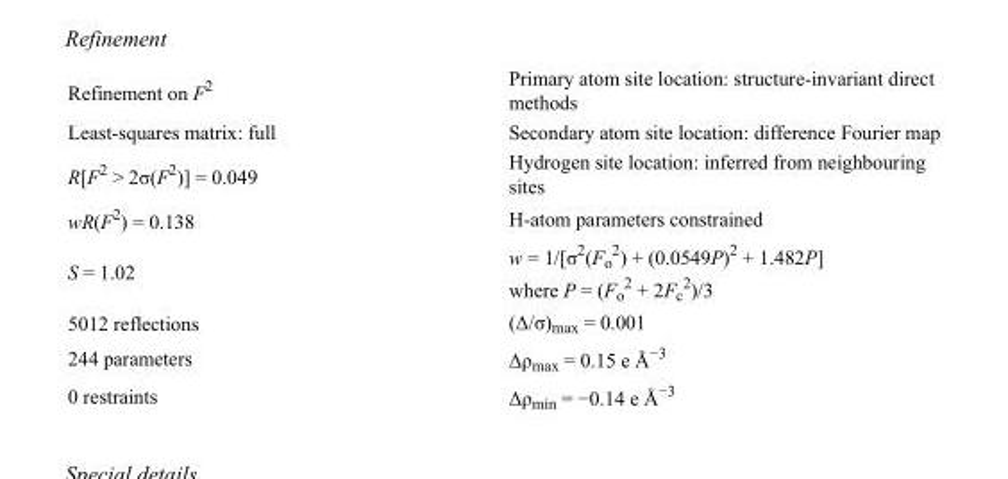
<table><tbody><tr><td>Refinement on F<sup>2</sup></td><td>Primary atom site location: structure-invariant direct methods</td></tr><tr><td>Least-squares matrix: full</td><td>Secondary atom site location: difference Fourier map</td></tr><tr><td>R[F<sup>2</sup> &gt; 2σ(F<sup>2</sup>)] = 0.049</td><td>Hydrogen site location: inferred from neighbouring sites</td></tr><tr><td>wR(F<sup>2</sup>) = 0.138</td><td>H-atom parameters constrained</td></tr><tr><td>S = 1.02</td><td>w = 1/[σ<sup>2</sup>(F<sub>o</sub> <sup>2</sup>) + (0.0549P)<sup>2</sup> + 1.482P] where P = (F<sub>o</sub> <sup>2</sup> + 2F<sub>c</sub> <sup>2</sup>)/3</td></tr><tr><td>5012 reflections</td><td>(Δ/σ)<sub>max</sub> = 0.001</td></tr><tr><td>244 parameters</td><td>Δρ<sub>max</sub> = 0.15 e Å<sup>−3</sup></td></tr><tr><td>0 restraints</td><td>Δρ<sub>min</sub> = −0.14 e Å<sup>−3</sup></td></tr></tbody></table>